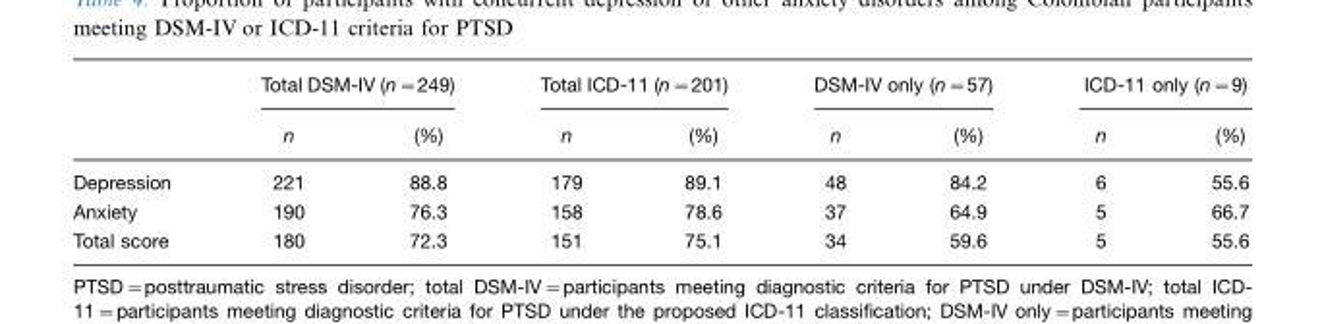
<table><thead><tr><td rowspan="2"></td><td colspan="2">Total DSM-IV (n=249)</td><td colspan="2">Total ICD-11 (n=201)</td><td colspan="2">DSM-IV only (n=57)</td><td colspan="2">ICD-11 only (n=9)</td></tr><tr><td>n</td><td>(%)</td><td>n</td><td>(%)</td><td>n</td><td>(%)</td><td>n</td><td>(%)</td></tr></thead><tbody><tr><td>Depression</td><td>221</td><td>88.8</td><td>179</td><td>89.1</td><td>48</td><td>84.2</td><td>6</td><td>55.6</td></tr><tr><td>Anxiety</td><td>190</td><td>76.3</td><td>158</td><td>78.6</td><td>37</td><td>64.9</td><td>5</td><td>66.7</td></tr><tr><td>Total score</td><td>180</td><td>72.3</td><td>151</td><td>75.1</td><td>34</td><td>59.6</td><td>5</td><td>55.6</td></tr></tbody></table>